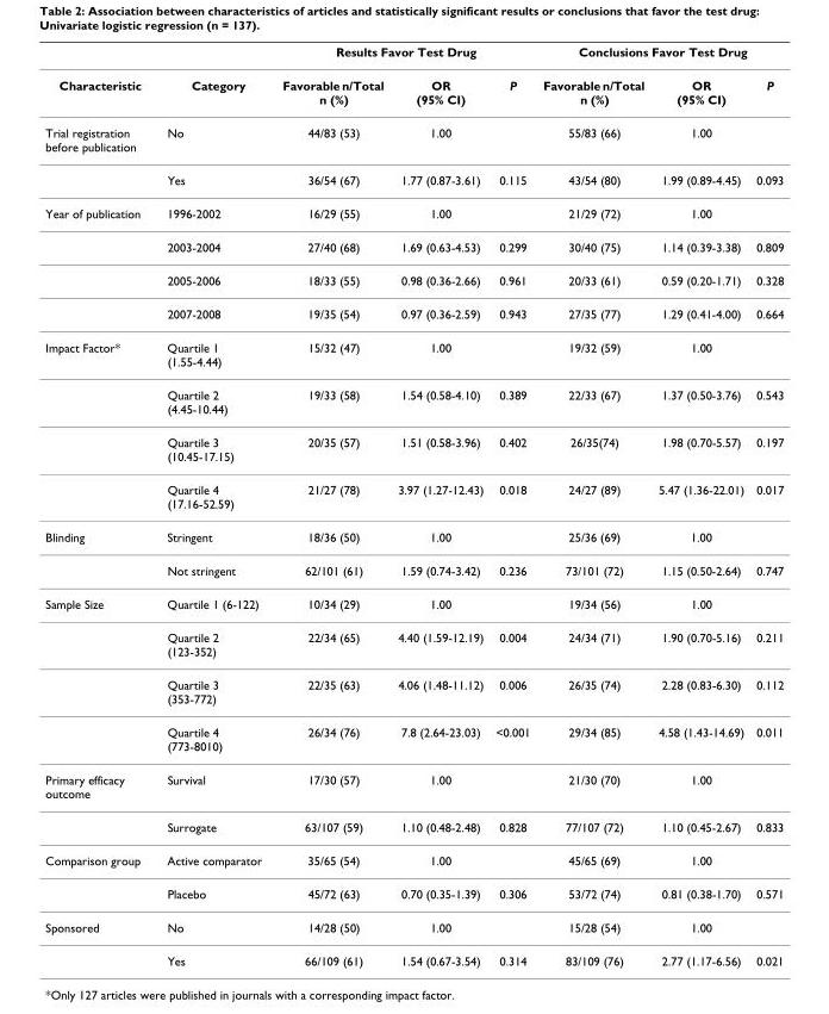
<table><thead><tr><td rowspan="2">Characteristic</td><td rowspan="2">Category</td><td colspan="3">Results Favor Test Drug</td><td colspan="3">Conclusions Favor Test Drug</td></tr><tr><td>Favorable n/Total n (%)</td><td>OR (95% CI)</td><td>P</td><td>Favorable n/Total n (%)</td><td>OR (95% CI)</td><td>P</td></tr></thead><tbody><tr><td rowspan="2">Trial registration before publication</td><td>No</td><td>44/83 (53)</td><td>1.00</td><td></td><td>55/83 (66)</td><td>1.00</td><td></td></tr><tr><td>Yes</td><td>36/54 (67)</td><td>1.77 (0.87-3.61)</td><td>0.115</td><td>43/54 (80)</td><td>1.99 (0.89-4.45)</td><td>0.093</td></tr><tr><td rowspan="4">Year of publication</td><td>1996-2002</td><td>16/29 (55)</td><td>1.00</td><td></td><td>21/29 (72)</td><td>1.00</td><td></td></tr><tr><td>2003-2004</td><td>27/40 (68)</td><td>1.69 (0.63-4.53)</td><td>0.299</td><td>30/40 (75)</td><td>1.14 (0.39-3.38)</td><td>0.809</td></tr><tr><td>2005-2006</td><td>18/33 (55)</td><td>0.98 (0.36-2.66)</td><td>0.961</td><td>20/33 (61)</td><td>0.59 (0.20-1.71)</td><td>0.328</td></tr><tr><td>2007-2008</td><td>19/35 (54)</td><td>0.97 (0.36-2.59)</td><td>0.943</td><td>27/35 (77)</td><td>1.29 (0.41-4.00)</td><td>0.664</td></tr><tr><td rowspan="4">Impact Factor*</td><td>Quartile 1 (1.55-4.44)</td><td>15/32 (47)</td><td>1.00</td><td></td><td>19/32 (59)</td><td>1.00</td><td></td></tr><tr><td>Quartile 2 (4.45-10.44)</td><td>19/33 (58)</td><td>1.54 (0.58-4.10)</td><td>0.389</td><td>22/33 (67)</td><td>1.37 (0.50-3.76)</td><td>0.543</td></tr><tr><td>Quartile 3 (10.45-17.15)</td><td>20/35 (57)</td><td>1.51 (0.58-3.96)</td><td>0.402</td><td>26/35(74)</td><td>1.98 (0.70-5.57)</td><td>0.197</td></tr><tr><td>Quartile 4 (17.16-52.59)</td><td>21/27 (78)</td><td>3.97 (1.27-12.43)</td><td>0.018</td><td>24/27 (89)</td><td>5.47 (1.36-22.01)</td><td>0.017</td></tr><tr><td rowspan="2">Blinding</td><td>Stringent</td><td>18/36 (50)</td><td>1.00</td><td></td><td>25/36 (69)</td><td>1.00</td><td></td></tr><tr><td>Not stringent</td><td>62/101 (61)</td><td>1.59 (0.74-3.42)</td><td>0.236</td><td>73/101 (72)</td><td>1.15 (0.50-2.64)</td><td>0.747</td></tr><tr><td rowspan="4">Sample Size</td><td>Quartile 1 (6-122)</td><td>10/34 (29)</td><td>1.00</td><td></td><td>19/34 (56)</td><td>1.00</td><td></td></tr><tr><td>Quartile 2 (123-352)</td><td>22/34 (65)</td><td>4.40 (1.59-12.19)</td><td>0.004</td><td>24/34 (71)</td><td>1.90 (0.70-5.16)</td><td>0.211</td></tr><tr><td>Quartile 3 (353-772)</td><td>22/35 (63)</td><td>4.06 (1.48-11.12)</td><td>0.006</td><td>26/35 (74)</td><td>2.28 (0.83-6.30)</td><td>0.112</td></tr><tr><td>Quartile 4 (773-8010)</td><td>26/34 (76)</td><td>7.8 (2.64-23.03)</td><td>&lt;0.001</td><td>29/34 (85)</td><td>4.58 (1.43-14.69)</td><td>0.011</td></tr><tr><td rowspan="2">Primary efficacy outcome</td><td>Survival</td><td>17/30 (57)</td><td>1.00</td><td></td><td>21/30 (70)</td><td>1.00</td><td></td></tr><tr><td>Surrogate</td><td>63/107 (59)</td><td>1.10 (0.48-2.48)</td><td>0.828</td><td>77/107 (72)</td><td>1.10 (0.45-2.67)</td><td>0.833</td></tr><tr><td rowspan="2">Comparison group</td><td>Active comparator</td><td>35/65 (54)</td><td>1.00</td><td></td><td>45/65 (69)</td><td>1.00</td><td></td></tr><tr><td>Placebo</td><td>45/72 (63)</td><td>0.70 (0.35-1.39)</td><td>0.306</td><td>53/72 (74)</td><td>0.81 (0.38-1.70)</td><td>0.571</td></tr><tr><td rowspan="2">Sponsored</td><td>No</td><td>14/28 (50)</td><td>1.00</td><td></td><td>15/28 (54)</td><td>1.00</td><td></td></tr><tr><td>Yes</td><td>66/109 (61)</td><td>1.54 (0.67-3.54)</td><td>0.314</td><td>83/109 (76)</td><td>2.77 (1.17-6.56)</td><td>0.021</td></tr></tbody></table>